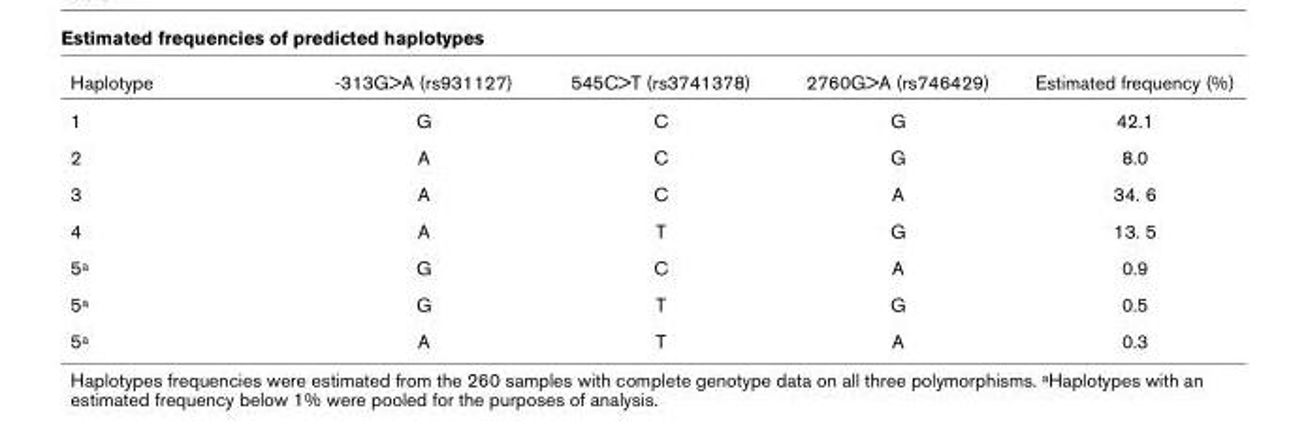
<table><thead><tr><td>Haplotype</td><td>-313G&gt;A (rs931127)</td><td>545C&gt;T (rs3741378)</td><td>2760G&gt;A (rs746429)</td><td>Estimated frequency (%)</td></tr></thead><tbody><tr><td>1</td><td>G</td><td>C</td><td>G</td><td>42.1</td></tr><tr><td>2</td><td>A</td><td>C</td><td>G</td><td>8.0</td></tr><tr><td>3</td><td>A</td><td>C</td><td>A</td><td>34. 6</td></tr><tr><td>4</td><td>A</td><td>T</td><td>G</td><td>13. 5</td></tr><tr><td>5a</td><td>G</td><td>C</td><td>A</td><td>0.9</td></tr><tr><td>5a</td><td>G</td><td>T</td><td>G</td><td>0.5</td></tr><tr><td>5a</td><td>A</td><td>T</td><td>A</td><td>0.3</td></tr></tbody></table>